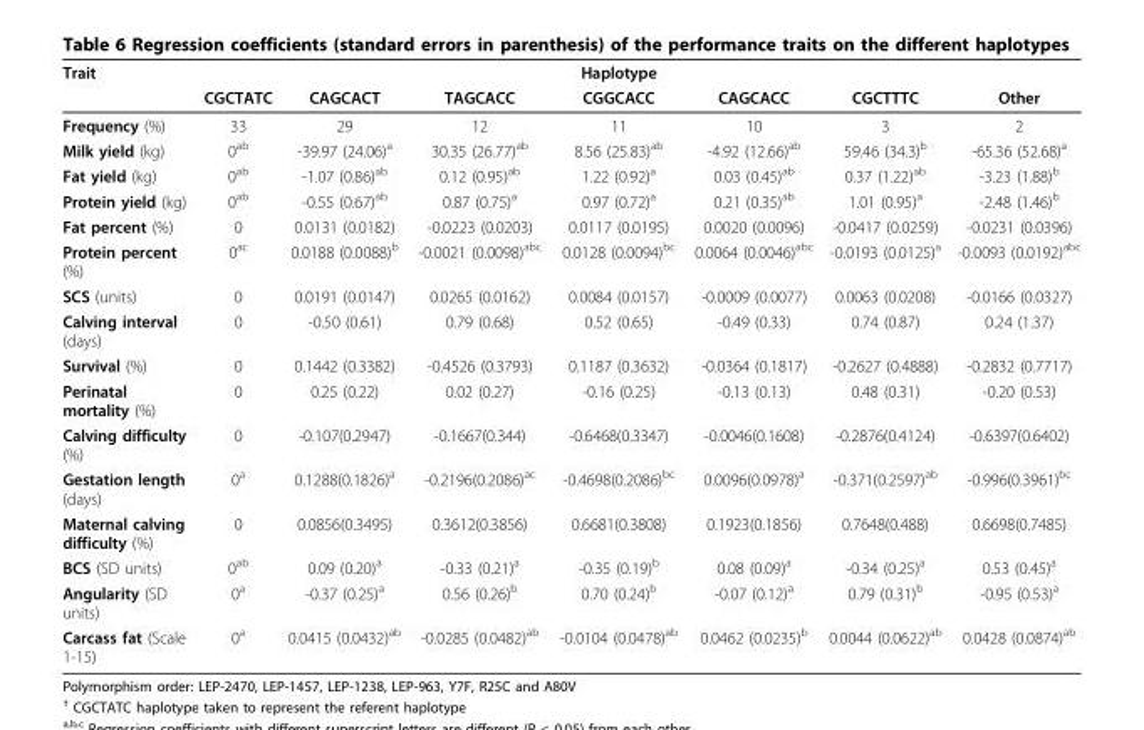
<table><thead><tr><td rowspan="2">Trait</td><td rowspan="2">CGCTATC</td><td rowspan="2">CAGCACT</td><td rowspan="2">TAGCACC</td><td rowspan="2">Haplotype CGGCACC</td><td rowspan="2">CAGCACC</td><td rowspan="2">CGCTTTC</td><td rowspan="2">Other</td></tr><tr></tr></thead><tbody><tr><td>Frequency (%)</td><td>33</td><td>29</td><td>12</td><td>11</td><td>10</td><td>3</td><td>2</td></tr><tr><td>Milk yield (kg)</td><td>0<sup>ab</sup></td><td>-39.97 (24.06)<sup>a</sup></td><td>30.35 (26.77)<sup>ab</sup></td><td>8.56 (25.83)<sup>ab</sup></td><td>-4.92 (12.66)<sup>ab</sup></td><td>59.46 (34.3)<sup>b</sup></td><td>-65.36 (52.68)<sup>a</sup></td></tr><tr><td>Fat yield (kg)</td><td>0<sup>ab</sup></td><td>-1.07 (0.86)<sup>ab</sup></td><td>0.12 (0.95)<sup>ab</sup></td><td>1.22 (0.92)<sup>a</sup></td><td>0.03 (0.45)<sup>ab</sup></td><td>0.37 (1.22)<sup>ab</sup></td><td>-3.23 (1.88)<sup>b</sup></td></tr><tr><td>Protein yield (kg)</td><td>0<sup>ab</sup></td><td>-0.55 (0.67)<sup>ab</sup></td><td>0.87 (0.75)<sup>a</sup></td><td>0.97 (0.72)<sup>a</sup></td><td>0.21 (0.35)<sup>ab</sup></td><td>1.01 (0.95)<sup>a</sup></td><td>-2.48 (1.46)<sup>b</sup></td></tr><tr><td>Fat percent (%)</td><td>0</td><td>0.0131 (0.0182)</td><td>-0.0223 (0.0203)</td><td>0.0117 (0.0195)</td><td>0.0020 (0.0096)</td><td>-0.0417 (0.0259)</td><td>-0.0231 (0.0396)</td></tr><tr><td>Protein percent (%)</td><td>0<sup>ac</sup></td><td>0.0188 (0.0088)<sup>b</sup></td><td>-0.0021 (0.0098)<sup>abc</sup></td><td>0.0128 (0.0094)<sup>bc</sup></td><td>0.0064 (0.0046)<sup>abc</sup></td><td>-0.0193 (0.0125)<sup>a</sup></td><td>-0.0093 (0.0192)<sup>abc</sup></td></tr><tr><td>SCS (units)</td><td>0</td><td>0.0191 (0.0147)</td><td>0.0265 (0.0162)</td><td>0.0084 (0.0157)</td><td>-0.0009 (0.0077)</td><td>0.0063 (0.0208)</td><td>-0.0166 (0.0327)</td></tr><tr><td>Calving interval (days)</td><td>0</td><td>-0.50 (0.61)</td><td>0.79 (0.68)</td><td>0.52 (0.65)</td><td>-0.49 (0.33)</td><td>0.74 (0.87)</td><td>0.24 (1.37)</td></tr><tr><td>Survival (%)</td><td>0</td><td>0.1442 (0.3382)</td><td>-0.4526 (0.3793)</td><td>0.1187 (0.3632)</td><td>-0.0364 (0.1817)</td><td>-0.2627 (0.4888)</td><td>-0.2832 (0.7717)</td></tr><tr><td>Perinatal mortality (%)</td><td>0</td><td>0.25 (0.22)</td><td>0.02 (0.27)</td><td>-0.16 (0.25)</td><td>-0.13 (0.13)</td><td>0.48 (0.31)</td><td>-0.20 (0.53)</td></tr><tr><td>Calving difficulty (%)</td><td>0</td><td>-0.107(0.2947)</td><td>-0.1667(0.344)</td><td>-0.6468(0.3347)</td><td>-0.0046(0.1608)</td><td>-0.2876(0.4124)</td><td>-0.6397(0.6402)</td></tr><tr><td>Gestation length (days)</td><td>0<sup>a</sup></td><td>0.1288(0.1826)<sup>a</sup></td><td>-0.2196(0.2086)<sup>ac</sup></td><td>-0.4698(0.2086)<sup>bc</sup></td><td>0.0096(0.0978)<sup>a</sup></td><td>-0.371(0.2597)<sup>ab</sup></td><td>-0.996(0.3961)<sup>bc</sup></td></tr><tr><td>Maternal calving difficulty (%)</td><td>0</td><td>0.0856(0.3495)</td><td>0.3612(0.3856)</td><td>0.6681(0.3808)</td><td>0.1923(0.1856)</td><td>0.7648(0.488)</td><td>0.6698(0.7485)</td></tr><tr><td>BCS (SD units)</td><td>0<sup>ab</sup></td><td>0.09 (0.20)<sup>a</sup></td><td>-0.33 (0.21)<sup>a</sup></td><td>-0.35 (0.19)<sup>b</sup></td><td>0.08 (0.09)<sup>a</sup></td><td>-0.34 (0.25)<sup>a</sup></td><td>0.53 (0.45)<sup>a</sup></td></tr><tr><td>Angularity (SD units)</td><td>0<sup>a</sup></td><td>-0.37 (0.25)<sup>a</sup></td><td>0.56 (0.26)<sup>b</sup></td><td>0.70 (0.24)<sup>b</sup></td><td>-0.07 (0.12)<sup>a</sup></td><td>0.79 (0.31)<sup>b</sup></td><td>-0.95 (0.53)<sup>a</sup></td></tr><tr><td>Carcass fat (Scale 1-15)</td><td>0<sup>a</sup></td><td>0.0415 (0.0432)<sup>ab</sup></td><td>-0.0285 (0.0482)<sup>ab</sup></td><td>-0.0104 (0.0478)<sup>ab</sup></td><td>0.0462 (0.0235)<sup>b</sup></td><td>0.0044 (0.0622)<sup>ab</sup></td><td>0.0428 (0.0874)<sup>ab</sup></td></tr></tbody></table>